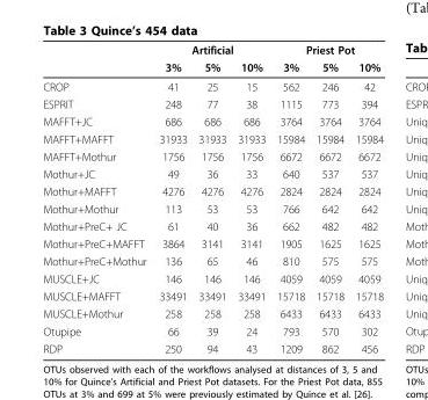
<table><thead><tr><td rowspan="2"></td><td colspan="3">Artificial</td><td colspan="3">Priest Pot</td></tr><tr><td>3%</td><td>5%</td><td>10%</td><td>3%</td><td>5%</td><td>10%</td></tr></thead><tbody><tr><td>CROP</td><td>41</td><td>25</td><td>15</td><td>562</td><td>246</td><td>42</td></tr><tr><td>ESPRIT</td><td>248</td><td>77</td><td>38</td><td>1115</td><td>773</td><td>394</td></tr><tr><td>MAFFT+JC</td><td>686</td><td>686</td><td>686</td><td>3764</td><td>3764</td><td>3764</td></tr><tr><td>MAFFT+MAFFT</td><td>31933</td><td>31933</td><td>31933</td><td>15984</td><td>15984</td><td>15984</td></tr><tr><td>MAFFT+Mothur</td><td>1756</td><td>1756</td><td>1756</td><td>6672</td><td>6672</td><td>6672</td></tr><tr><td>Mothur+JC</td><td>49</td><td>36</td><td>33</td><td>640</td><td>537</td><td>537</td></tr><tr><td>Mothur+MAFFT</td><td>4276</td><td>4276</td><td>4276</td><td>2824</td><td>2824</td><td>2824</td></tr><tr><td>Mothur+Mothur</td><td>113</td><td>53</td><td>53</td><td>766</td><td>642</td><td>642</td></tr><tr><td>Mothur+PreC+ JC</td><td>61</td><td>40</td><td>36</td><td>662</td><td>482</td><td>482</td></tr><tr><td>Mothur+PreC+MAFFT</td><td>3864</td><td>3141</td><td>3141</td><td>1905</td><td>1625</td><td>1625</td></tr><tr><td>Mothur+PreC+Mothur</td><td>136</td><td>65</td><td>46</td><td>810</td><td>575</td><td>575</td></tr><tr><td>MUSCLE+JC</td><td>146</td><td>146</td><td>146</td><td>4059</td><td>4059</td><td>4059</td></tr><tr><td>MUSCLE+MAFFT</td><td>33491</td><td>33491</td><td>33491</td><td>15718</td><td>15718</td><td>15718</td></tr><tr><td>MUSCLE+Mothur</td><td>258</td><td>258</td><td>258</td><td>6433</td><td>6433</td><td>6433</td></tr><tr><td>Otupipe</td><td>66</td><td>39</td><td>24</td><td>793</td><td>570</td><td>302</td></tr><tr><td>RDP</td><td>250</td><td>94</td><td>43</td><td>1209</td><td>862</td><td>456</td></tr></tbody></table>